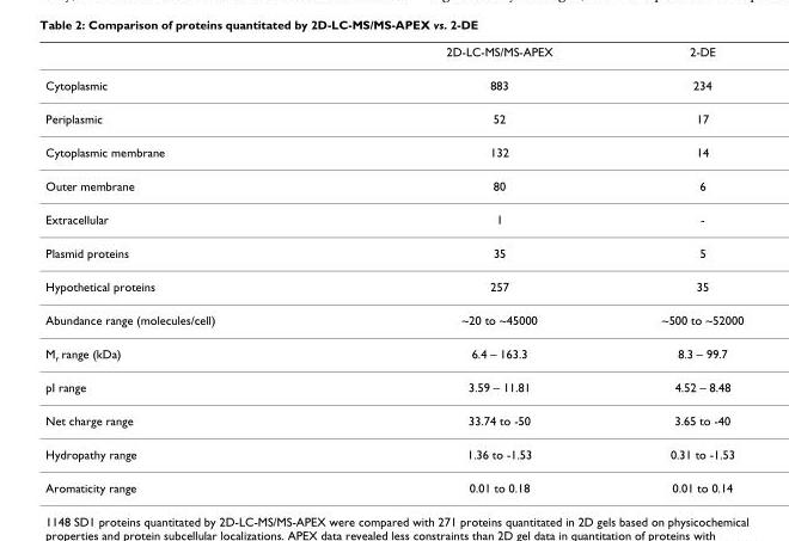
<table><thead><tr><td></td><td>2D-LC-MS/MS-APEX</td><td>2-DE</td></tr></thead><tbody><tr><td>Cytoplasmic</td><td>883</td><td>234</td></tr><tr><td>Periplasmic</td><td>52</td><td>17</td></tr><tr><td>Cytoplasmic membrane</td><td>132</td><td>14</td></tr><tr><td>Outer membrane</td><td>80</td><td>6</td></tr><tr><td>Extracellular</td><td>1</td><td>-</td></tr><tr><td>Plasmid proteins</td><td>35</td><td>5</td></tr><tr><td>Hypothetical proteins</td><td>257</td><td>35</td></tr><tr><td>Abundance range (molecules/cell)</td><td>~20 to ~45000</td><td>~500 to ~52000</td></tr><tr><td>M<sub>r</sub> range (kDa)</td><td>6.4 – 163.3</td><td>8.3 – 99.7</td></tr><tr><td>pI range</td><td>3.59 – 11.81</td><td>4.52 – 8.48</td></tr><tr><td>Net charge range</td><td>33.74 to -50</td><td>3.65 to -40</td></tr><tr><td>Hydropathy range</td><td>1.36 to -1.53</td><td>0.31 to -1.53</td></tr><tr><td>Aromaticity range</td><td>0.01 to 0.18</td><td>0.01 to 0.14</td></tr></tbody></table>